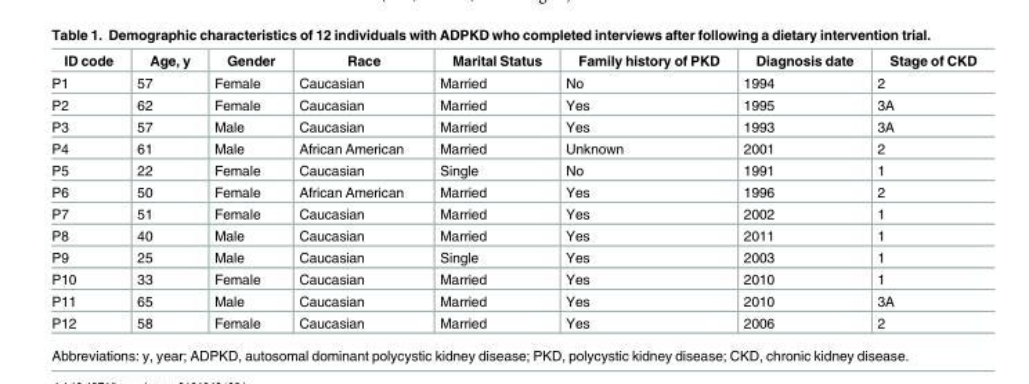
<table><thead><tr><td>ID code</td><td>Age, y</td><td>Gender</td><td>Race</td><td>Marital Status</td><td>Family history of PKD</td><td>Diagnosis date</td><td>Stage of CKD</td></tr></thead><tbody><tr><td>P1</td><td>57</td><td>Female</td><td>Caucasian</td><td>Married</td><td>No</td><td>1994</td><td>2</td></tr><tr><td>P2</td><td>62</td><td>Female</td><td>Caucasian</td><td>Married</td><td>Yes</td><td>1995</td><td>3A</td></tr><tr><td>P3</td><td>57</td><td>Male</td><td>Caucasian</td><td>Married</td><td>Yes</td><td>1993</td><td>3A</td></tr><tr><td>P4</td><td>61</td><td>Male</td><td>African American</td><td>Married</td><td>Unknown</td><td>2001</td><td>2</td></tr><tr><td>P5</td><td>22</td><td>Female</td><td>Caucasian</td><td>Single</td><td>No</td><td>1991</td><td>1</td></tr><tr><td>P6</td><td>50</td><td>Female</td><td>African American</td><td>Married</td><td>Yes</td><td>1996</td><td>2</td></tr><tr><td>P7</td><td>51</td><td>Female</td><td>Caucasian</td><td>Married</td><td>Yes</td><td>2002</td><td>1</td></tr><tr><td>P8</td><td>40</td><td>Male</td><td>Caucasian</td><td>Married</td><td>Yes</td><td>2011</td><td>1</td></tr><tr><td>P9</td><td>25</td><td>Male</td><td>Caucasian</td><td>Single</td><td>Yes</td><td>2003</td><td>1</td></tr><tr><td>P10</td><td>33</td><td>Female</td><td>Caucasian</td><td>Married</td><td>Yes</td><td>2010</td><td>1</td></tr><tr><td>P11</td><td>65</td><td>Male</td><td>Caucasian</td><td>Married</td><td>Yes</td><td>2010</td><td>3A</td></tr><tr><td>P12</td><td>58</td><td>Female</td><td>Caucasian</td><td>Married</td><td>Yes</td><td>2006</td><td>2</td></tr></tbody></table>